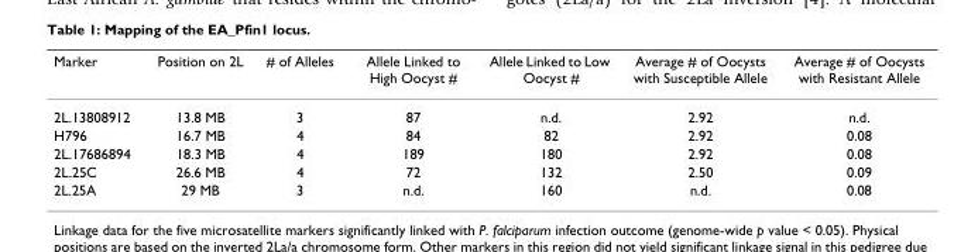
<table><thead><tr><td>Marker</td><td>Position on 2L</td><td># of Alleles</td><td>Allele Linked to High Oocyst #</td><td>Allele Linked to Low Oocyst #</td><td>Average # of Oocysts with Susceptible Allele</td><td>Average # of Oocysts with Resistant Allele</td></tr></thead><tbody><tr><td>2L.13808912</td><td>13.8 MB</td><td>3</td><td>87</td><td>n.d.</td><td>2.92</td><td>n.d.</td></tr><tr><td>H796</td><td>16.7 MB</td><td>4</td><td>84</td><td>82</td><td>2.92</td><td>0.08</td></tr><tr><td>2L.17686894</td><td>18.3 MB</td><td>4</td><td>189</td><td>180</td><td>2.92</td><td>0.08</td></tr><tr><td>2L.25C</td><td>26.6 MB</td><td>4</td><td>72</td><td>132</td><td>2.50</td><td>0.09</td></tr><tr><td>2L.25A</td><td>29 MB</td><td>3</td><td>n.d.</td><td>160</td><td>n.d.</td><td>0.08</td></tr></tbody></table>